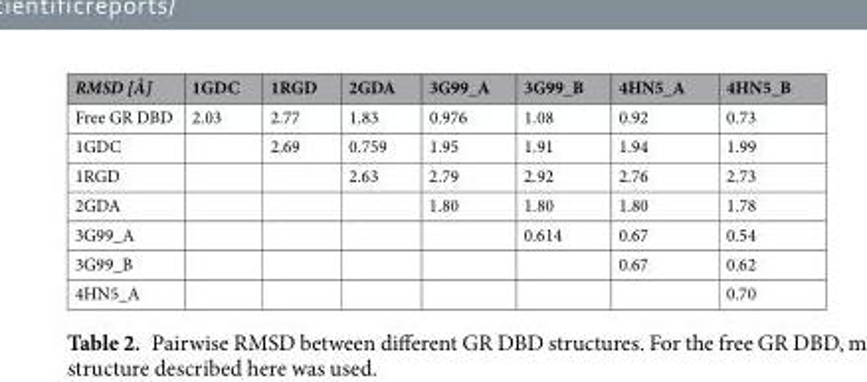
<table><thead><tr><td>RMSD [Å]</td><td>1GDC</td><td>1RGD</td><td>2GDA</td><td>3G99_A</td><td>3G99_B</td><td>4HN5_A</td><td>4HN5_B</td></tr></thead><tbody><tr><td>Free GR DBD</td><td>2.03</td><td>2.77</td><td>1.83</td><td>0.976</td><td>1.08</td><td>0.92</td><td>0.73</td></tr><tr><td>1GDC</td><td></td><td>2.69</td><td>0.759</td><td>1.95</td><td>1.91</td><td>1.94</td><td>1.99</td></tr><tr><td>1RGD</td><td></td><td></td><td>2.63</td><td>2.79</td><td>2.92</td><td>2.76</td><td>2.73</td></tr><tr><td>2GDA</td><td></td><td></td><td></td><td>1.80</td><td>1.80</td><td>1.80</td><td>1.78</td></tr><tr><td>3G99_A</td><td></td><td></td><td></td><td></td><td>0.614</td><td>0.67</td><td>0.54</td></tr><tr><td>3G99_B</td><td></td><td></td><td></td><td></td><td></td><td>0.67</td><td>0.62</td></tr><tr><td>4HN5_A</td><td></td><td></td><td></td><td></td><td></td><td></td><td>0.70</td></tr></tbody></table>